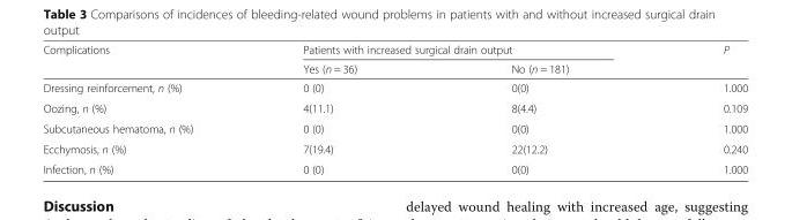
<table><thead><tr><td rowspan="2">Complications</td><td colspan="2">Patients with increased surgical drain output</td><td rowspan="2">P</td></tr><tr><td>Yes (n = 36)</td><td>No (n = 181)</td></tr></thead><tbody><tr><td>Dressing reinforcement, n (%)</td><td>0 (0)</td><td>0(0)</td><td>1.000</td></tr><tr><td>Oozing, n (%)</td><td>4(11.1)</td><td>8(4.4)</td><td>0.109</td></tr><tr><td>Subcutaneous hematoma, n (%)</td><td>0 (0)</td><td>0(0)</td><td>1.000</td></tr><tr><td>Ecchymosis, n (%)</td><td>7(19.4)</td><td>22(12.2)</td><td>0.240</td></tr><tr><td>Infection, n (%)</td><td>0 (0)</td><td>0(0)</td><td>1.000</td></tr></tbody></table>